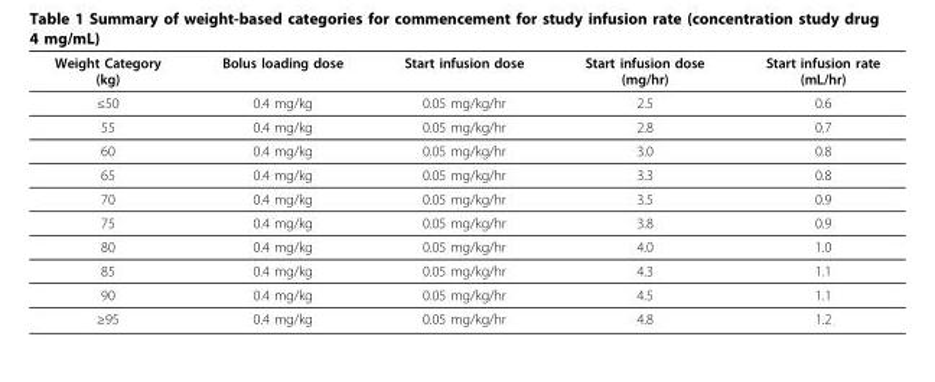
<table><thead><tr><td>Weight Category (kg)</td><td>Bolus loading dose</td><td>Start infusion dose</td><td>Start infusion dose (mg/hr)</td><td>Start infusion rate (mL/hr)</td></tr></thead><tbody><tr><td>≤50</td><td>0.4 mg/kg</td><td>0.05 mg/kg/hr</td><td>2.5</td><td>0.6</td></tr><tr><td>55</td><td>0.4 mg/kg</td><td>0.05 mg/kg/hr</td><td>2.8</td><td>0.7</td></tr><tr><td>60</td><td>0.4 mg/kg</td><td>0.05 mg/kg/hr</td><td>3.0</td><td>0.8</td></tr><tr><td>65</td><td>0.4 mg/kg</td><td>0.05 mg/kg/hr</td><td>3.3</td><td>0.8</td></tr><tr><td>70</td><td>0.4 mg/kg</td><td>0.05 mg/kg/hr</td><td>3.5</td><td>0.9</td></tr><tr><td>75</td><td>0.4 mg/kg</td><td>0.05 mg/kg/hr</td><td>3.8</td><td>0.9</td></tr><tr><td>80</td><td>0.4 mg/kg</td><td>0.05 mg/kg/hr</td><td>4.0</td><td>1.0</td></tr><tr><td>85</td><td>0.4 mg/kg</td><td>0.05 mg/kg/hr</td><td>4.3</td><td>1.1</td></tr><tr><td>90</td><td>0.4 mg/kg</td><td>0.05 mg/kg/hr</td><td>4.5</td><td>1.1</td></tr><tr><td>≥95</td><td>0.4 mg/kg</td><td>0.05 mg/kg/hr</td><td>4.8</td><td>1.2</td></tr></tbody></table>